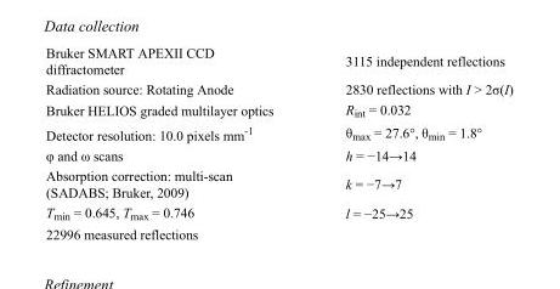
<table><tbody><tr><td>Bruker SMART APEXII CCD diffractometer</td><td>3115 independent reflections</td></tr><tr><td>Radiation source: Rotating Anode</td><td>2830 reflections with I &gt; 2σ(I)</td></tr><tr><td>Bruker HELIOS graded multilayer optics</td><td>R<sub>int</sub> = 0.032</td></tr><tr><td>Detector resolution: 10.0 pixels mm<sup>-1</sup></td><td>θ<sub>max</sub> = 27.6°, θ<sub>min</sub> = 1.8°</td></tr><tr><td>φ and ω scans</td><td>h = −14→14</td></tr><tr><td>Absorption correction: multi-scan (SADABS; Bruker, 2009)</td><td>k = −7→7</td></tr><tr><td>T<sub>min</sub> = 0.645, T<sub>max</sub> = 0.746</td><td>l = −25→25</td></tr><tr><td>22996 measured reflections</td><td></td></tr></tbody></table>